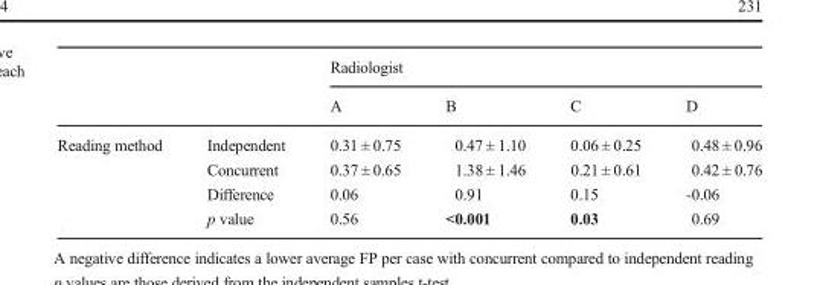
<table><thead><tr><td rowspan="2"></td><td rowspan="2"></td><td colspan="4">Radiologist</td></tr><tr><td>A</td><td>B</td><td>C</td><td>D</td></tr></thead><tbody><tr><td rowspan="4">Reading method</td><td>Independent</td><td>0.31 ± 0.75</td><td>0.47 ± 1.10</td><td>0.06 ± 0.25</td><td>0.48 ± 0.96</td></tr><tr><td>Concurrent</td><td>0.37 ± 0.65</td><td>1.38 ± 1.46</td><td>0.21 ± 0.61</td><td>0.42 ± 0.76</td></tr><tr><td>Difference</td><td>0.06</td><td>0.91</td><td>0.15</td><td>-0.06</td></tr><tr><td>p value</td><td>0.56</td><td>&lt;0.001</td><td>0.03</td><td>0.69</td></tr></tbody></table>